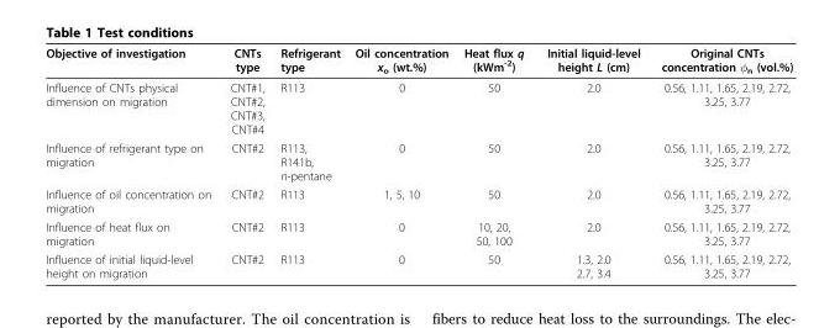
<table><thead><tr><td>Objective of investigation</td><td>CNTs type</td><td>Refrigerant type</td><td>Oil concentration x<sub>o</sub> (wt.%)</td><td>Heat flux q (kWm<sup>-2</sup>)</td><td>Initial liquid-level height L (cm)</td><td>Original CNTs concentration φ<sub>n</sub> (vol.%)</td></tr></thead><tbody><tr><td>Influence of CNTs physical dimension on migration</td><td>CNT#1, CNT#2, CNT#3, CNT#4</td><td>R113</td><td>0</td><td>50</td><td>2.0</td><td>0.56, 1.11, 1.65, 2.19, 2.72, 3.25, 3.77</td></tr><tr><td>Influence of refrigerant type on migration</td><td>CNT#2</td><td>R113, R141b, n-pentane</td><td>0</td><td>50</td><td>2.0</td><td>0.56, 1.11, 1.65, 2.19, 2.72, 3.25, 3.77</td></tr><tr><td>Influence of oil concentration on migration</td><td>CNT#2</td><td>R113</td><td>1, 5, 10</td><td>50</td><td>2.0</td><td>0.56, 1.11, 1.65, 2.19, 2.72, 3.25, 3.77</td></tr><tr><td>Influence of heat flux on migration</td><td>CNT#2</td><td>R113</td><td>0</td><td>10, 20, 50, 100</td><td>2.0</td><td>0.56, 1.11, 1.65, 2.19, 2.72, 3.25, 3.77</td></tr><tr><td>Influence of initial liquid-level height on migration</td><td>CNT#2</td><td>R113</td><td>0</td><td>50</td><td>1.3, 2.0 2.7, 3.4</td><td>0.56, 1.11, 1.65, 2.19, 2.72, 3.25, 3.77</td></tr></tbody></table>